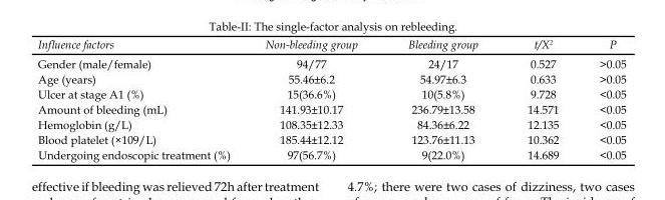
<table><thead><tr><td>Influence factors</td><td>Non-bleeding group</td><td>Bleeding group</td><td>t/X2</td><td>P</td></tr></thead><tbody><tr><td>Gender (male/female)</td><td>94/77</td><td>24/17</td><td>0.527</td><td>&gt;0.05</td></tr><tr><td>Age (years)</td><td>55.46±6.2</td><td>54.97±6.3</td><td>0.633</td><td>&gt;0.05</td></tr><tr><td>Ulcer at stage A1 (%)</td><td>15(36.6%)</td><td>10(5.8%)</td><td>9.728</td><td>&lt;0.05</td></tr><tr><td>Amount of bleeding (mL)</td><td>141.93±10.17</td><td>236.79±13.58</td><td>14.571</td><td>&lt;0.05</td></tr><tr><td>Hemoglobin (g/L)</td><td>108.35±12.33</td><td>84.36±6.22</td><td>12.135</td><td>&lt;0.05</td></tr><tr><td>Blood platelet (×10<sup>9</sup>/L)</td><td>185.44±12.12</td><td>123.76±11.13</td><td>10.362</td><td>&lt;0.05</td></tr><tr><td>Undergoing endoscopic treatment (%)</td><td>97(56.7%)</td><td>9(22.0%)</td><td>14.689</td><td>&lt;0.05</td></tr></tbody></table>